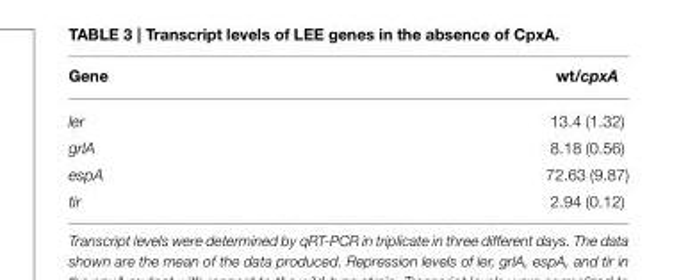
<table><thead><tr><td>Gene</td><td>wt/cpxA</td></tr></thead><tbody><tr><td>ler</td><td>13.4 (1.32)</td></tr><tr><td>grlA</td><td>8.18 (0.56)</td></tr><tr><td>espA</td><td>72.63 (9.87)</td></tr><tr><td>tir</td><td>2.94 (0.12)</td></tr></tbody></table>